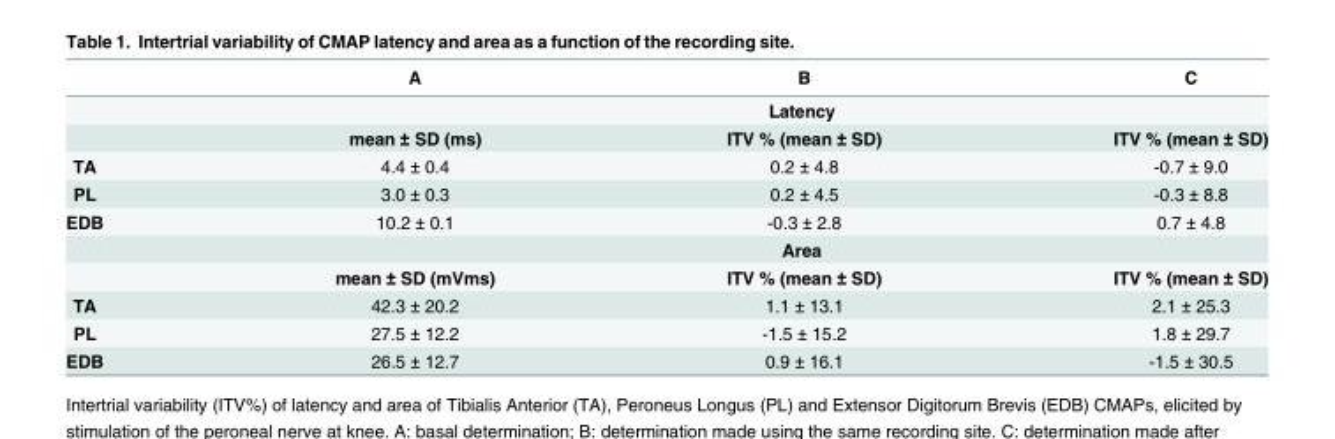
<table><thead><tr><td></td><td>A</td><td>B</td><td>C</td></tr></thead><tbody><tr><td></td><td colspan="3">Latency</td></tr><tr><td></td><td>mean ± SD (ms)</td><td>ITV % (mean ± SD)</td><td>ITV % (mean ± SD)</td></tr><tr><td>TA</td><td>4.4 ± 0.4</td><td>0.2 ± 4.8</td><td>-0.7 ± 9.0</td></tr><tr><td>PL</td><td>3.0 ± 0.3</td><td>0.2 ± 4.5</td><td>-0.3 ± 8.8</td></tr><tr><td rowspan="3">EDB</td><td>10.2 ± 0.1</td><td>-0.3 ± 2.8</td><td>0.7 ± 4.8</td></tr><tr><td colspan="3">Area</td></tr><tr><td>mean ± SD (mVms)</td><td>ITV % (mean ± SD)</td><td>ITV % (mean ± SD)</td></tr><tr><td>TA</td><td>42.3 ± 20.2</td><td>1.1 ± 13.1</td><td>2.1 ± 25.3</td></tr><tr><td>PL</td><td>27.5 ± 12.2</td><td>-1.5 ± 15.2</td><td>1.8 ± 29.7</td></tr><tr><td>EDB</td><td>26.5 ± 12.7</td><td>0.9 ± 16.1</td><td>-1.5 ± 30.5</td></tr></tbody></table>